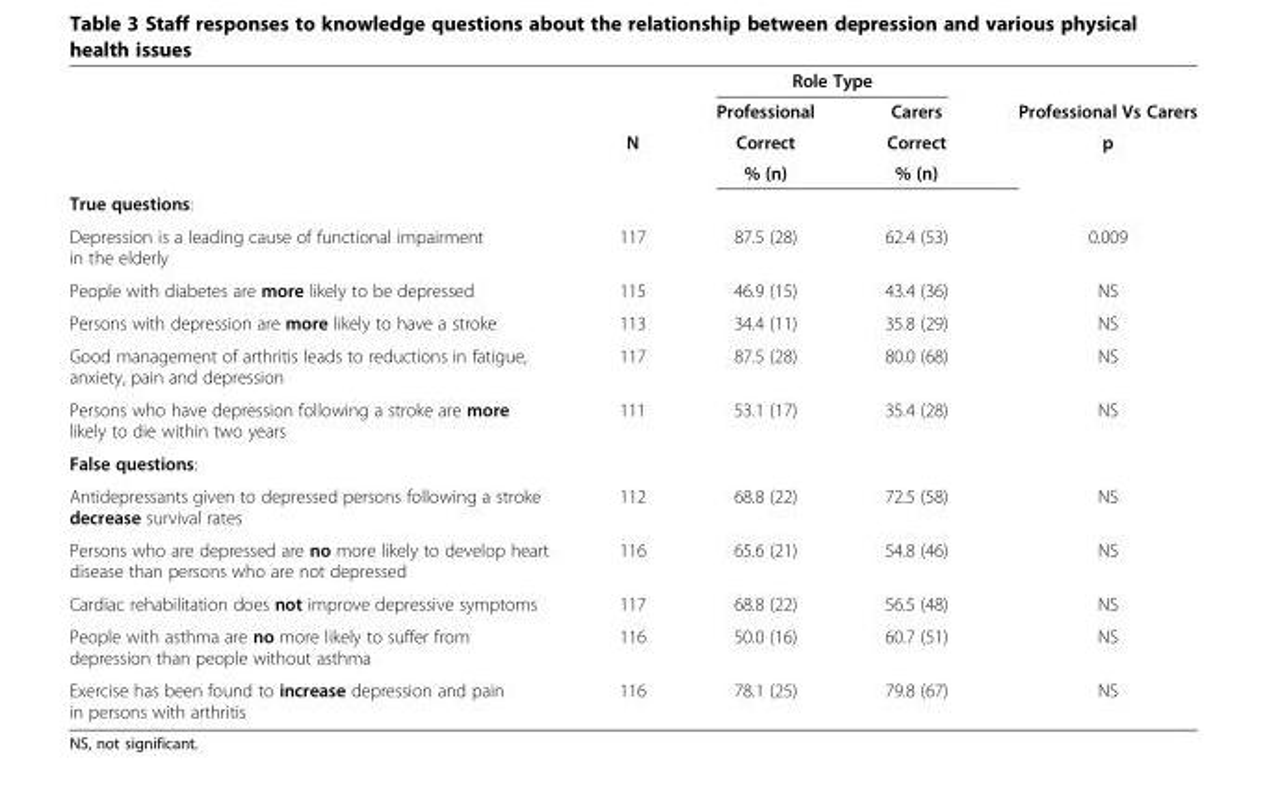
<table><thead><tr><td rowspan="4"></td><td rowspan="4">N</td><td colspan="2">Role Type</td><td rowspan="4">Professional Vs Carers p</td></tr><tr><td rowspan="3">Professional Correct % (n)</td><td rowspan="3">Carers Correct % (n)</td></tr><tr></tr><tr></tr></thead><tbody><tr><td colspan="5">True questions:</td></tr><tr><td>Depression is a leading cause of functional impairment in the elderly</td><td>117</td><td>87.5 (28)</td><td>62.4 (53)</td><td>0.009</td></tr><tr><td>People with diabetes are more likely to be depressed</td><td>115</td><td>46.9 (15)</td><td>43.4 (36)</td><td>NS</td></tr><tr><td>Persons with depression are more likely to have a stroke</td><td>113</td><td>34.4 (11)</td><td>35.8 (29)</td><td>NS</td></tr><tr><td>Good management of arthritis leads to reductions in fatigue, anxiety, pain and depression</td><td>117</td><td>87.5 (28)</td><td>80.0 (68)</td><td>NS</td></tr><tr><td>Persons who have depression following a stroke are more likely to die within two years</td><td>111</td><td>53.1 (17)</td><td>35.4 (28)</td><td>NS</td></tr><tr><td colspan="5">False questions:</td></tr><tr><td>Antidepressants given to depressed persons following a stroke decrease survival rates</td><td>112</td><td>68.8 (22)</td><td>72.5 (58)</td><td>NS</td></tr><tr><td>Persons who are depressed are no more likely to develop heart disease than persons who are not depressed</td><td>116</td><td>65.6 (21)</td><td>54.8 (46)</td><td>NS</td></tr><tr><td>Cardiac rehabilitation does not improve depressive symptoms</td><td>117</td><td>68.8 (22)</td><td>56.5 (48)</td><td>NS</td></tr><tr><td>People with asthma are no more likely to suffer from depression than people without asthma</td><td>116</td><td>50.0 (16)</td><td>60.7 (51)</td><td>NS</td></tr><tr><td>Exercise has been found to increase depression and pain in persons with arthritis</td><td>116</td><td>78.1 (25)</td><td>79.8 (67)</td><td>NS</td></tr></tbody></table>